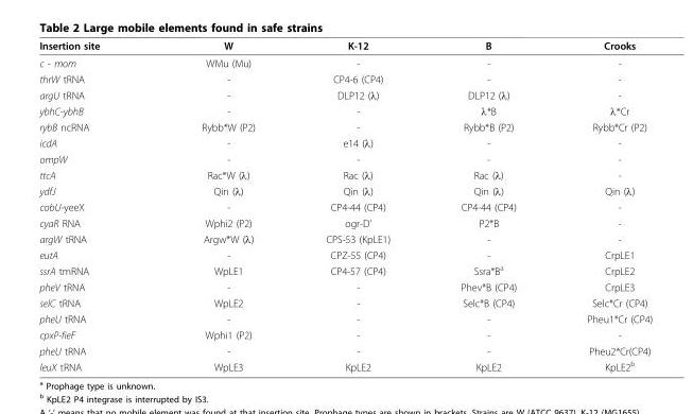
<table><thead><tr><td>Insertion site</td><td>W</td><td>K-12</td><td>B</td><td>Crooks</td></tr></thead><tbody><tr><td>c - mom</td><td>WMu (Mu)</td><td>-</td><td>-</td><td>-</td></tr><tr><td>thrW tRNA</td><td>-</td><td>CP4-6 (CP4)</td><td>-</td><td>-</td></tr><tr><td>argU tRNA</td><td>-</td><td>DLP12 (λ)</td><td>DLP12 (λ)</td><td>-</td></tr><tr><td>ybhC-ybhB</td><td>-</td><td>-</td><td>λ*B</td><td>λ*Cr</td></tr><tr><td>rybB ncRNA</td><td>Rybb*W (P2)</td><td>-</td><td>Rybb*B (P2)</td><td>Rybb*Cr (P2)</td></tr><tr><td>icdA</td><td>-</td><td>e14 (λ)</td><td>-</td><td>-</td></tr><tr><td>ompW</td><td>-</td><td>-</td><td>-</td><td>-</td></tr><tr><td>ttcA</td><td>Rac*W (λ)</td><td>Rac (λ)</td><td>Rac (λ)</td><td>-</td></tr><tr><td>ydfJ</td><td>Qin (λ)</td><td>Qin (λ)</td><td>Qin (λ)</td><td>Qin (λ)</td></tr><tr><td>cobU-yeeX</td><td>-</td><td>CP4-44 (CP4)</td><td>CP4-44 (CP4)</td><td>-</td></tr><tr><td>cyaR RNA</td><td>Wphi2 (P2)</td><td>ogr-D’</td><td>P2*B</td><td>-</td></tr><tr><td>argW tRNA</td><td>Argw*W (λ)</td><td>CPS-53 (KpLE1)</td><td>-</td><td>-</td></tr><tr><td>eutA</td><td>-</td><td>CPZ-55 (CP4)</td><td>-</td><td>CrpLE1</td></tr><tr><td>ssrA tmRNA</td><td>WpLE1</td><td>CP4-57 (CP4)</td><td>Ssra*B<sup>a</sup></td><td>CrpLE2</td></tr><tr><td>pheV tRNA</td><td>-</td><td>-</td><td>Phev*B (CP4)</td><td>CrpLE3</td></tr><tr><td>selC tRNA</td><td>WpLE2</td><td>-</td><td>Selc*B (CP4)</td><td>Selc*Cr (CP4)</td></tr><tr><td>pheU tRNA</td><td>-</td><td>-</td><td>-</td><td>Pheu1*Cr (CP4)</td></tr><tr><td>cpxP-fieF</td><td>Wphi1 (P2)</td><td>-</td><td>-</td><td>-</td></tr><tr><td>pheU tRNA</td><td>-</td><td>-</td><td>-</td><td>Pheu2*Cr(CP4)</td></tr><tr><td>leuX tRNA</td><td>WpLE3</td><td>KpLE2</td><td>KpLE2</td><td>KpLE2<sup>b</sup></td></tr></tbody></table>